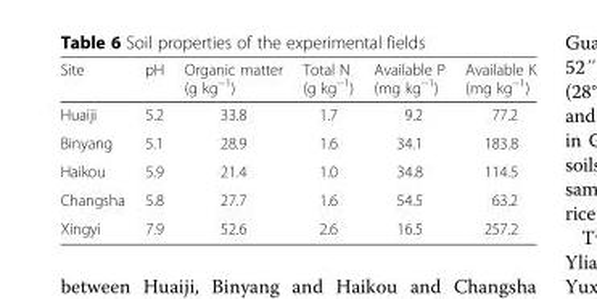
<table><thead><tr><td>Site</td><td>pH</td><td>Organic matter (g kg<sup>−1</sup>)</td><td>Total N (g kg<sup>−1</sup>)</td><td>Available P (mg kg<sup>−1</sup>)</td><td>Available K (mg kg<sup>−1</sup>)</td></tr></thead><tbody><tr><td>Huaiji</td><td>5.2</td><td>33.8</td><td>1.7</td><td>9.2</td><td>77.2</td></tr><tr><td>Binyang</td><td>5.1</td><td>28.9</td><td>1.6</td><td>34.1</td><td>183.8</td></tr><tr><td>Haikou</td><td>5.9</td><td>21.4</td><td>1.0</td><td>34.8</td><td>114.5</td></tr><tr><td>Changsha</td><td>5.8</td><td>27.7</td><td>1.6</td><td>54.5</td><td>63.2</td></tr><tr><td>Xingyi</td><td>7.9</td><td>52.6</td><td>2.6</td><td>16.5</td><td>257.2</td></tr></tbody></table>